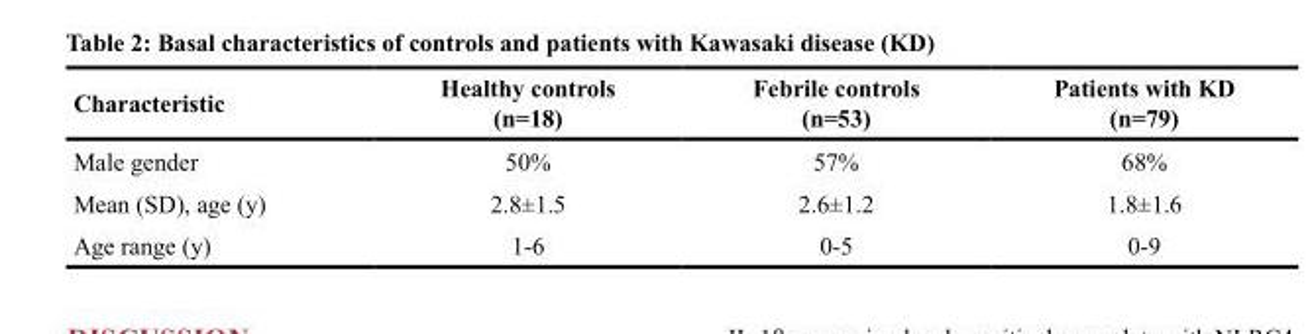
<table><thead><tr><td>Characteristic</td><td>Healthy controls (n=18)</td><td>Febrile controls (n=53)</td><td>Patients with KD (n=79)</td></tr></thead><tbody><tr><td>Male gender</td><td>50%</td><td>57%</td><td>68%</td></tr><tr><td>Mean (SD), age (y)</td><td>2.8±1.5</td><td>2.6±1.2</td><td>1.8±1.6</td></tr><tr><td>Age range (y)</td><td>1-6</td><td>0-5</td><td>0-9</td></tr></tbody></table>